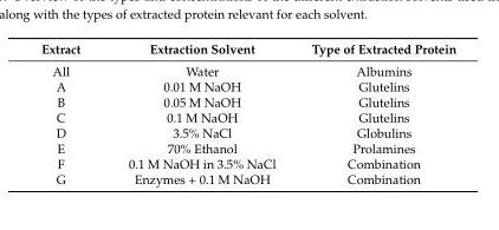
<table><thead><tr><td>Extract</td><td>Extraction Solvent</td><td>Type of Extracted Protein</td></tr></thead><tbody><tr><td>All</td><td>Water</td><td>Albumins</td></tr><tr><td>A</td><td>0.01 M NaOH</td><td>Glutelins</td></tr><tr><td>B</td><td>0.05 M NaOH</td><td>Glutelins</td></tr><tr><td>C</td><td>0.1 M NaOH</td><td>Glutelins</td></tr><tr><td>D</td><td>3.5% NaCl</td><td>Globulins</td></tr><tr><td>E</td><td>70% Ethanol</td><td>Prolamines</td></tr><tr><td>F</td><td>0.1 M NaOH in 3.5% NaCl</td><td>Combination</td></tr><tr><td>G</td><td>Enzymes + 0.1 M NaOH</td><td>Combination</td></tr></tbody></table>